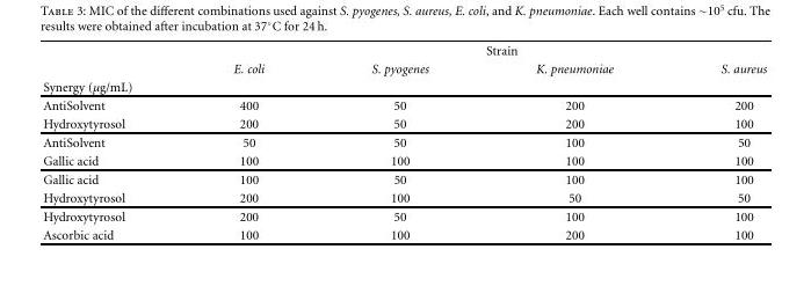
<table><thead><tr><td rowspan="3">Synergy (μg/mL)</td><td colspan="4">Strain</td></tr><tr><td rowspan="2">E. coli</td><td rowspan="2">S. pyogenes</td><td rowspan="2">K. pneumoniae</td><td rowspan="2">S. aureus</td></tr><tr></tr></thead><tbody><tr><td>AntiSolvent</td><td>400</td><td>50</td><td>200</td><td>200</td></tr><tr><td>Hydroxytyrosol</td><td>200</td><td>50</td><td>200</td><td>100</td></tr><tr><td>AntiSolvent</td><td>50</td><td>50</td><td>100</td><td>50</td></tr><tr><td>Gallic acid</td><td>100</td><td>100</td><td>100</td><td>100</td></tr><tr><td>Gallic acid</td><td>100</td><td>50</td><td>100</td><td>100</td></tr><tr><td>Hydroxytyrosol</td><td>200</td><td>100</td><td>50</td><td>50</td></tr><tr><td>Hydroxytyrosol</td><td>200</td><td>50</td><td>100</td><td>100</td></tr><tr><td>Ascorbic acid</td><td>100</td><td>100</td><td>200</td><td>100</td></tr></tbody></table>